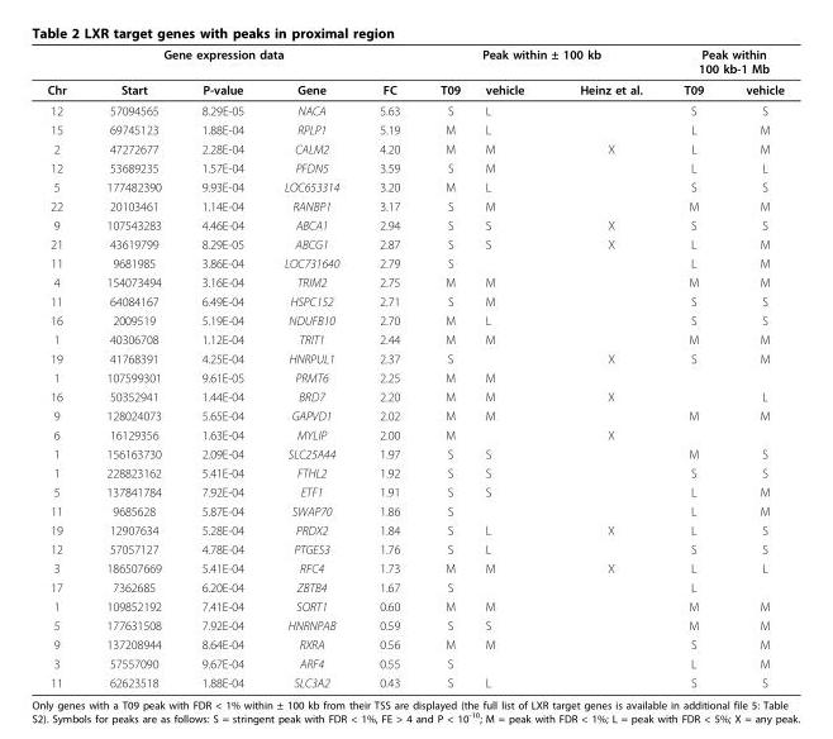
<table><thead><tr><td colspan="5">Gene expression data</td><td colspan="3">Peak within ± 100 kb</td><td colspan="2">Peak within 100 kb-1 Mb</td></tr><tr><td>Chr</td><td>Start</td><td>P-value</td><td>Gene</td><td>FC</td><td>T09</td><td>vehicle</td><td>Heinz et al.</td><td>T09</td><td>vehicle</td></tr></thead><tbody><tr><td>12</td><td>57094565</td><td>8.29E-05</td><td>NACA</td><td>5.63</td><td>S</td><td>L</td><td></td><td>S</td><td>S</td></tr><tr><td>15</td><td>69745123</td><td>1.88E-04</td><td>RPLP1</td><td>5.19</td><td>M</td><td>L</td><td></td><td>L</td><td>M</td></tr><tr><td>2</td><td>47272677</td><td>2.28E-04</td><td>CALM2</td><td>4.20</td><td>M</td><td>M</td><td>X</td><td>L</td><td>M</td></tr><tr><td>12</td><td>53689235</td><td>1.57E-04</td><td>PFDN5</td><td>3.59</td><td>S</td><td>M</td><td></td><td>L</td><td>L</td></tr><tr><td>5</td><td>177482390</td><td>9.93E-04</td><td>LOC653314</td><td>3.20</td><td>M</td><td>L</td><td></td><td>S</td><td>S</td></tr><tr><td>22</td><td>20103461</td><td>1.14E-04</td><td>RANBP1</td><td>3.17</td><td>S</td><td>M</td><td></td><td>M</td><td>M</td></tr><tr><td>9</td><td>107543283</td><td>4.46E-04</td><td>ABCA1</td><td>2.94</td><td>S</td><td>S</td><td>X</td><td>S</td><td>S</td></tr><tr><td>21</td><td>43619799</td><td>8.29E-05</td><td>ABCG1</td><td>2.87</td><td>S</td><td>S</td><td>X</td><td>L</td><td>M</td></tr><tr><td>11</td><td>9681985</td><td>3.86E-04</td><td>LOC731640</td><td>2.79</td><td>S</td><td></td><td></td><td>L</td><td>M</td></tr><tr><td>4</td><td>154073494</td><td>3.16E-04</td><td>TRIM2</td><td>2.75</td><td>M</td><td>M</td><td></td><td>M</td><td>M</td></tr><tr><td>11</td><td>64084167</td><td>6.49E-04</td><td>HSPC152</td><td>2.71</td><td>S</td><td>M</td><td></td><td>S</td><td>S</td></tr><tr><td>16</td><td>2009519</td><td>5.19E-04</td><td>NDUFB10</td><td>2.70</td><td>M</td><td>L</td><td></td><td>S</td><td>S</td></tr><tr><td>1</td><td>40306708</td><td>1.12E-04</td><td>TRIT1</td><td>2.44</td><td>M</td><td>M</td><td></td><td>M</td><td>M</td></tr><tr><td>19</td><td>41768391</td><td>4.25E-04</td><td>HNRPUL1</td><td>2.37</td><td>S</td><td></td><td>X</td><td>S</td><td>M</td></tr><tr><td>1</td><td>107599301</td><td>9.61E-05</td><td>PRMT6</td><td>2.25</td><td>M</td><td>M</td><td></td><td></td><td></td></tr><tr><td>16</td><td>50352941</td><td>1.44E-04</td><td>BRD7</td><td>2.20</td><td>M</td><td>M</td><td>X</td><td></td><td>L</td></tr><tr><td>9</td><td>128024073</td><td>5.65E-04</td><td>GAPVD1</td><td>2.02</td><td>M</td><td>M</td><td></td><td>M</td><td>M</td></tr><tr><td>6</td><td>16129356</td><td>1.63E-04</td><td>MYLIP</td><td>2.00</td><td>M</td><td></td><td>X</td><td></td><td></td></tr><tr><td>1</td><td>156163730</td><td>2.09E-04</td><td>SLC25A44</td><td>1.97</td><td>S</td><td>S</td><td></td><td>M</td><td>S</td></tr><tr><td>1</td><td>228823162</td><td>5.41E-04</td><td>FTHL2</td><td>1.92</td><td>S</td><td>S</td><td></td><td>S</td><td>S</td></tr><tr><td>5</td><td>137841784</td><td>7.92E-04</td><td>ETF1</td><td>1.91</td><td>S</td><td>S</td><td></td><td>L</td><td>M</td></tr><tr><td>11</td><td>9685628</td><td>5.87E-04</td><td>SWAP70</td><td>1.86</td><td>S</td><td></td><td></td><td>L</td><td>M</td></tr><tr><td>19</td><td>12907634</td><td>5.28E-04</td><td>PRDX2</td><td>1.84</td><td>S</td><td>L</td><td>X</td><td>L</td><td>S</td></tr><tr><td>12</td><td>57057127</td><td>4.78E-04</td><td>PTGES3</td><td>1.76</td><td>S</td><td>L</td><td></td><td>S</td><td>S</td></tr><tr><td>3</td><td>186507669</td><td>5.41E-04</td><td>RFC4</td><td>1.73</td><td>M</td><td>M</td><td>X</td><td>L</td><td>L</td></tr><tr><td>17</td><td>7362685</td><td>6.20E-04</td><td>ZBTB4</td><td>1.67</td><td>S</td><td></td><td></td><td>L</td><td></td></tr><tr><td>1</td><td>109852192</td><td>7.41E-04</td><td>SORT1</td><td>0.60</td><td>M</td><td>M</td><td></td><td>M</td><td>M</td></tr><tr><td>5</td><td>177631508</td><td>7.92E-04</td><td>HNRNPAB</td><td>0.59</td><td>S</td><td>S</td><td></td><td>M</td><td>M</td></tr><tr><td>9</td><td>137208944</td><td>8.64E-04</td><td>RXRA</td><td>0.56</td><td>M</td><td>M</td><td></td><td>S</td><td>M</td></tr><tr><td>3</td><td>57557090</td><td>9.67E-04</td><td>ARF4</td><td>0.55</td><td>S</td><td></td><td></td><td>L</td><td>M</td></tr><tr><td>11</td><td>62623518</td><td>1.88E-04</td><td>SLC3A2</td><td>0.43</td><td>S</td><td>L</td><td></td><td>S</td><td>S</td></tr></tbody></table>